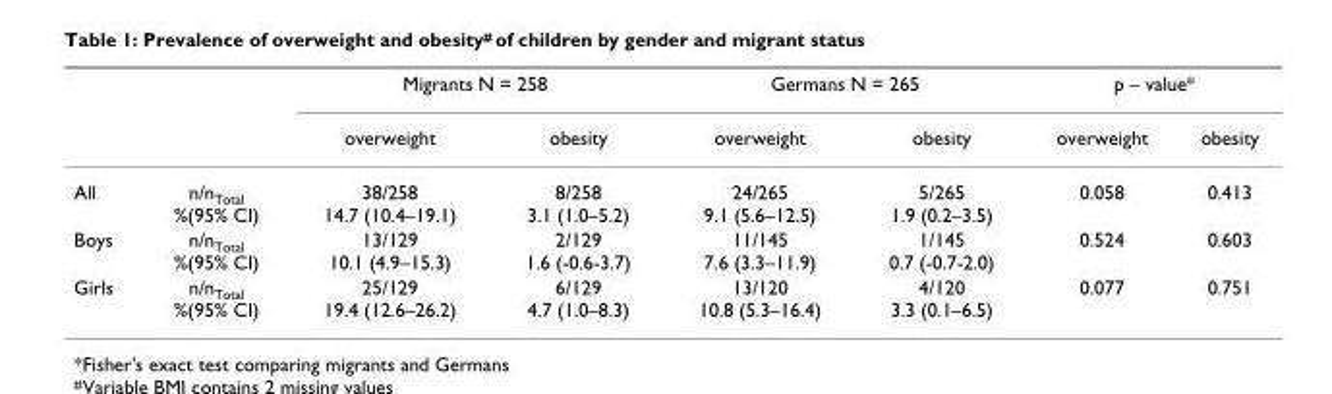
<table><thead><tr><td rowspan="2"></td><td rowspan="2"></td><td colspan="2">Migrants N = 258</td><td colspan="2">Germans N = 265</td><td colspan="2">p – value*</td></tr><tr><td>overweight</td><td>obesity</td><td>overweight</td><td>obesity</td><td>overweight</td><td>obesity</td></tr></thead><tbody><tr><td>All</td><td>n/n<sub>Total</sub> %(95% CI)</td><td>38/258 14.7 (10.4–19.1)</td><td>8/258 3.1 (1.0–5.2)</td><td>24/265 9.1 (5.6–12.5)</td><td>5/265 1.9 (0.2–3.5)</td><td>0.058</td><td>0.413</td></tr><tr><td>Boys</td><td>n/n<sub>Total</sub> %(95% CI)</td><td>13/129 10.1 (4.9–15.3)</td><td>2/129 1.6 (-0.6-3.7)</td><td>11/145 7.6 (3.3–11.9)</td><td>1/145 0.7 (-0.7-2.0)</td><td>0.524</td><td>0.603</td></tr><tr><td>Girls</td><td>n/n<sub>Total</sub> %(95% CI)</td><td>25/129 19.4 (12.6–26.2)</td><td>6/129 4.7 (1.0–8.3)</td><td>13/120 10.8 (5.3–16.4)</td><td>4/120 3.3 (0.1–6.5)</td><td>0.077</td><td>0.751</td></tr></tbody></table>